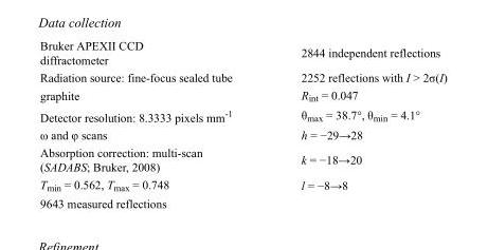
<table><tbody><tr><td>Bruker APEXII CCD diffractometer</td><td>2844 independent reflections</td></tr><tr><td>Radiation source: fine-focus sealed tube</td><td>2252 reflections with I &gt; 2σ(I)</td></tr><tr><td>graphite</td><td>R<sub>int</sub> = 0.047</td></tr><tr><td>Detector resolution: 8.3333 pixels mm<sup>-1</sup></td><td>θ<sub>max</sub> = 38.7°, θ<sub>min</sub> = 4.1°</td></tr><tr><td>ω and φ scans</td><td>h = −29→28</td></tr><tr><td>Absorption correction: multi-scan (SADABS; Bruker, 2008)</td><td>k = −18→20</td></tr><tr><td>T<sub>min</sub> = 0.562, T<sub>max</sub> = 0.748</td><td>l = −8→8</td></tr><tr><td>9643 measured reflections</td><td></td></tr></tbody></table>